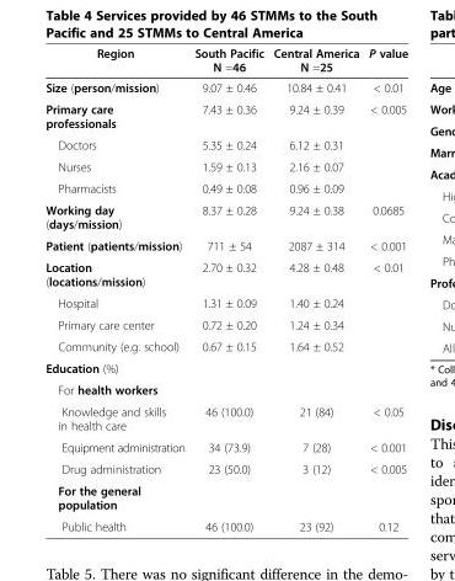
<table><thead><tr><td>Region</td><td>South Pacific N =46</td><td>Central America N =25</td><td>P value</td></tr></thead><tbody><tr><td>Size (person/mission)</td><td>9.07 ± 0.46</td><td>10.84 ± 0.41</td><td>&lt; 0.01</td></tr><tr><td>Primary care professionals</td><td>7.43 ± 0.36</td><td>9.24 ± 0.39</td><td>&lt; 0.005</td></tr><tr><td>Doctors</td><td>5.35 ± 0.24</td><td>6.12 ± 0.31</td><td></td></tr><tr><td>Nurses</td><td>1.59 ± 0.13</td><td>2.16 ± 0.07</td><td></td></tr><tr><td>Pharmacists</td><td>0.49 ± 0.08</td><td>0.96 ± 0.09</td><td></td></tr><tr><td>Working day (days/mission)</td><td>8.37 ± 0.28</td><td>9.24 ± 0.38</td><td>0.0685</td></tr><tr><td>Patient (patients/mission)</td><td>711 ± 54</td><td>2087 ± 314</td><td>&lt; 0.001</td></tr><tr><td>Location (locations/mission)</td><td>2.70 ± 0.32</td><td>4.28 ± 0.48</td><td>&lt; 0.01</td></tr><tr><td>Hospital</td><td>1.31 ± 0.09</td><td>1.40 ± 0.24</td><td></td></tr><tr><td>Primary care center</td><td>0.72 ± 0.20</td><td>1.24 ± 0.34</td><td></td></tr><tr><td>Community (e.g. school)</td><td>0.67 ± 0.15</td><td>1.64 ± 0.52</td><td></td></tr><tr><td colspan="4">Education (%)</td></tr><tr><td colspan="4">For health workers</td></tr><tr><td>Knowledge and skills in health care</td><td>46 (100.0)</td><td>21 (84)</td><td>&lt; 0.05</td></tr><tr><td>Equipment administration</td><td>34 (73.9)</td><td>7 (28)</td><td>&lt; 0.001</td></tr><tr><td>Drug administration</td><td>23 (50.0)</td><td>3 (12)</td><td>&lt; 0.005</td></tr><tr><td colspan="4">For the general population</td></tr><tr><td>Public health</td><td>46 (100.0)</td><td>23 (92)</td><td>0.12</td></tr></tbody></table>